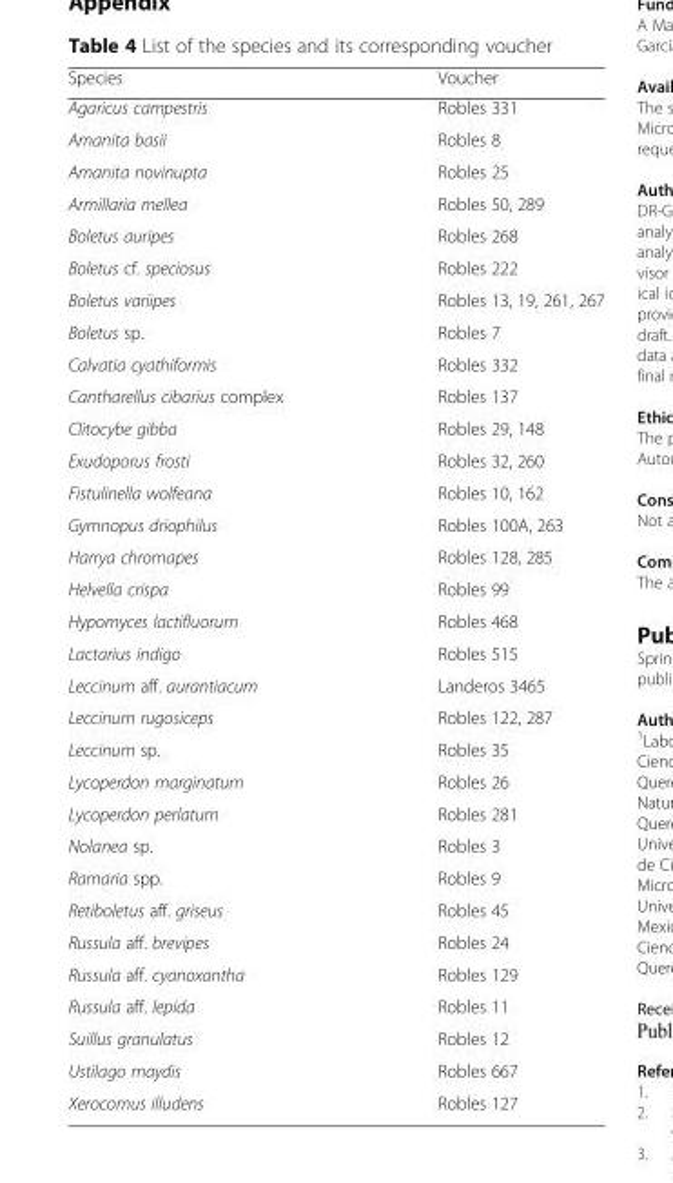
<table><thead><tr><td>Species</td><td>Voucher</td></tr></thead><tbody><tr><td>Agaricus campestris</td><td>Robles 331</td></tr><tr><td>Amanita basii</td><td>Robles 8</td></tr><tr><td>Amanita novinupta</td><td>Robles 25</td></tr><tr><td>Armillaria mellea</td><td>Robles 50, 289</td></tr><tr><td>Boletus auripes</td><td>Robles 268</td></tr><tr><td>Boletus cf. speciosus</td><td>Robles 222</td></tr><tr><td>Boletus variipes</td><td>Robles 13, 19, 261, 267</td></tr><tr><td>Boletus sp.</td><td>Robles 7</td></tr><tr><td>Calvatia cyathiformis</td><td>Robles 332</td></tr><tr><td>Cantharellus cibarius complex</td><td>Robles 137</td></tr><tr><td>Clitocybe gibba</td><td>Robles 29, 148</td></tr><tr><td>Exudoporus frosti</td><td>Robles 32, 260</td></tr><tr><td>Fistulinella wolfeana</td><td>Robles 10, 162</td></tr><tr><td>Gymnopus driophilus</td><td>Robles 100A, 263</td></tr><tr><td>Harrya chromapes</td><td>Robles 128, 285</td></tr><tr><td>Helvella crispa</td><td>Robles 99</td></tr><tr><td>Hypomyces lactifluorum</td><td>Robles 468</td></tr><tr><td>Lactarius indigo</td><td>Robles 515</td></tr><tr><td>Leccinum aff. aurantiacum</td><td>Landeros 3465</td></tr><tr><td>Leccinum rugosiceps</td><td>Robles 122, 287</td></tr><tr><td>Leccinum sp.</td><td>Robles 35</td></tr><tr><td>Lycoperdon marginatum</td><td>Robles 26</td></tr><tr><td>Lycoperdon perlatum</td><td>Robles 281</td></tr><tr><td>Nolanea sp.</td><td>Robles 3</td></tr><tr><td>Ramaria spp.</td><td>Robles 9</td></tr><tr><td>Retiboletus aff. griseus</td><td>Robles 45</td></tr><tr><td>Russula aff. brevipes</td><td>Robles 24</td></tr><tr><td>Russula aff. cyanoxantha</td><td>Robles 129</td></tr><tr><td>Russula aff. lepida</td><td>Robles 11</td></tr><tr><td>Suillus granulatus</td><td>Robles 12</td></tr><tr><td>Ustilago maydis</td><td>Robles 667</td></tr><tr><td>Xerocomus illudens</td><td>Robles 127</td></tr></tbody></table>